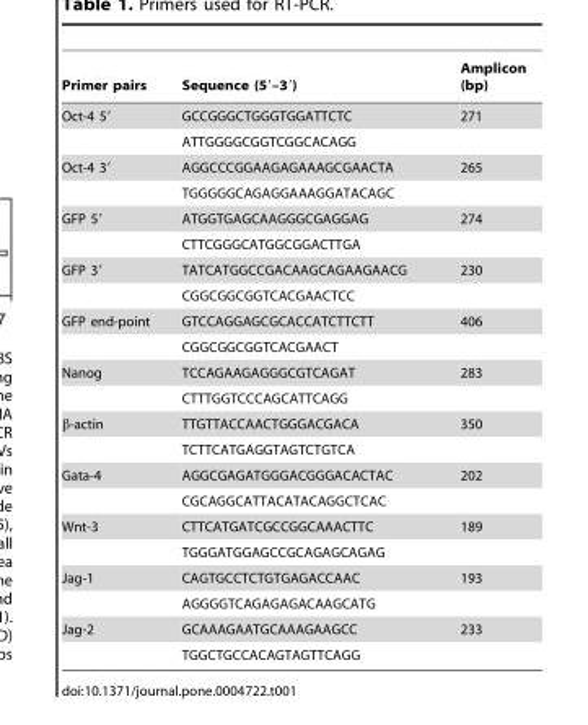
<table><thead><tr><td>Primer pairs</td><td>Sequence (5′–3′)</td><td>Amplicon (bp)</td></tr></thead><tbody><tr><td rowspan="2">Oct-4 5′</td><td>GCCGGGCTGGGTGGATTCTC</td><td>271</td></tr><tr><td>ATTGGGGCGGTCGGCACAGG</td><td></td></tr><tr><td rowspan="2">Oct-4 3′</td><td>AGGCCCGGAAGAGAAAGCGAACTA</td><td>265</td></tr><tr><td>TGGGGGCAGAGGAAAGGATACAGC</td><td></td></tr><tr><td rowspan="2">GFP 5′</td><td>ATGGTGAGCAAGGGCGAGGAG</td><td>274</td></tr><tr><td>CTTCGGGCATGGCGGACTTGA</td><td></td></tr><tr><td rowspan="2">GFP 3′</td><td>TATCATGGCCGACAAGCAGAAGAACG</td><td>230</td></tr><tr><td>CGGCGGCGGTCACGAACTCC</td><td></td></tr><tr><td rowspan="2">GFP end-point</td><td>GTCCAGGAGCGCACCATCTTCTT</td><td>406</td></tr><tr><td>CGGCGGCGGTCACGAACT</td><td></td></tr><tr><td rowspan="2">Nanog</td><td>TCCAGAAGAGGGCGTCAGAT</td><td>283</td></tr><tr><td>CTTTGGTCCCAGCATTCAGG</td><td></td></tr><tr><td rowspan="2">β-actin</td><td>TTGTTACCAACTGGGACGACA</td><td>350</td></tr><tr><td>TCTTCATGAGGTAGTCTGTCA</td><td></td></tr><tr><td rowspan="2">Gata-4</td><td>AGGCGAGATGGGACGGGACACTAC</td><td>202</td></tr><tr><td>CGCAGGCATTACATACAGGCTCAC</td><td></td></tr><tr><td rowspan="2">Wnt-3</td><td>CTTCATGATCGCCGGCAAACTTC</td><td>189</td></tr><tr><td>TGGGATGGAGCCGCAGAGCAGAG</td><td></td></tr><tr><td rowspan="2">Jag-1</td><td>CAGTGCCTCTGTGAGACCAAC</td><td>193</td></tr><tr><td>AGGGGTCAGAGAGACAAGCATG</td><td></td></tr><tr><td rowspan="2">Jag-2</td><td>GCAAAGAATGCAAAGAAGCC</td><td>233</td></tr><tr><td>TGGCTGCCACAGTAGTTCAGG</td><td></td></tr></tbody></table>